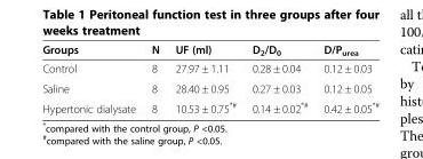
<table><thead><tr><td>Groups</td><td>N</td><td>UF (ml)</td><td>D<sub>2</sub>/D<sub>0</sub></td><td>D/P<sub>urea</sub></td></tr></thead><tbody><tr><td>Control</td><td>8</td><td>27.97 ± 1.11</td><td>0.28 ± 0.04</td><td>0.12 ± 0.03</td></tr><tr><td>Saline</td><td>8</td><td>28.40 ± 0.95</td><td>0.27 ± 0.03</td><td>0.12 ± 0.05</td></tr><tr><td>Hypertonic dialysate</td><td>8</td><td>10.53 ± 0.75<sup>*#</sup></td><td>0.14 ± 0.02<sup>*#</sup></td><td>0.42 ± 0.05<sup>*#</sup></td></tr></tbody></table>